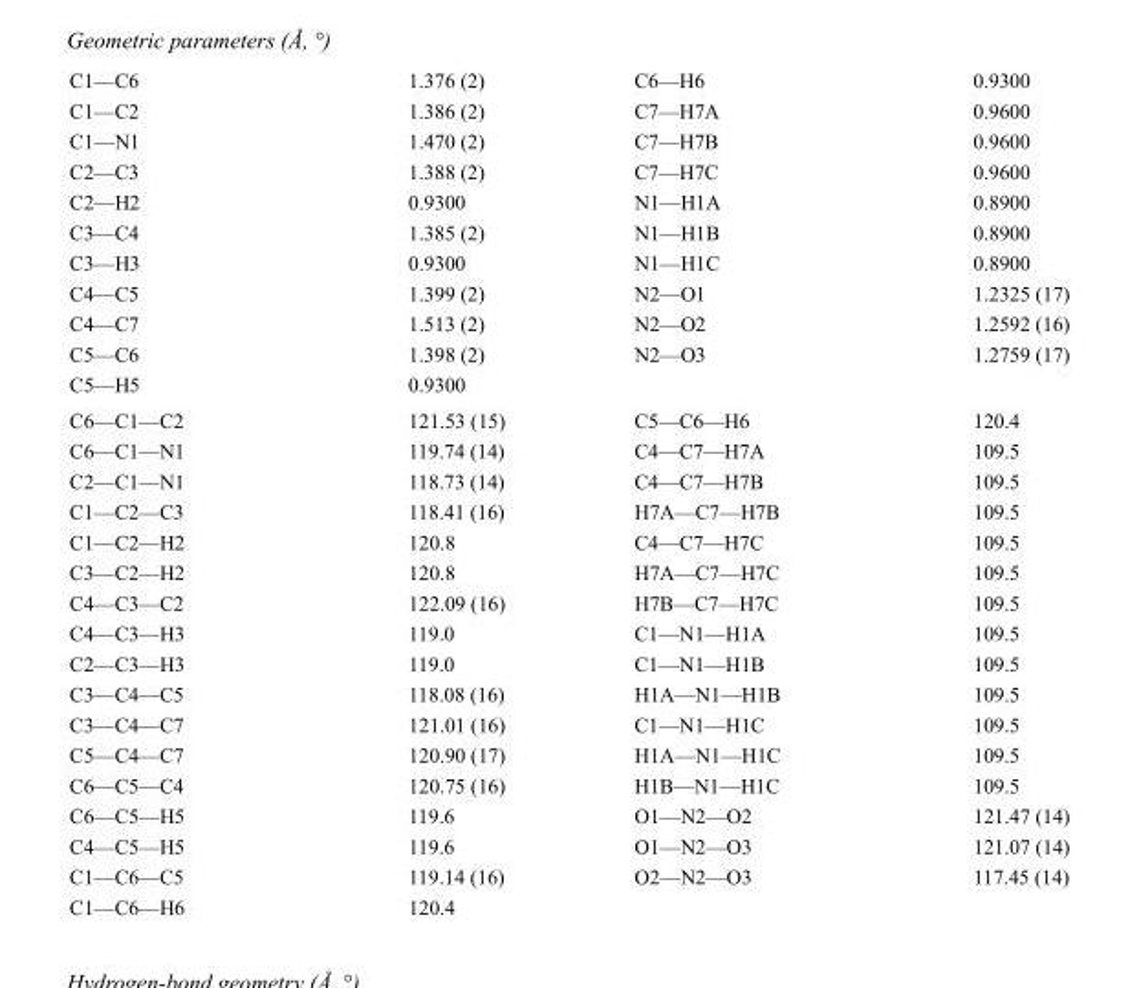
<table><tbody><tr><td>C1—C6</td><td>1.376 (2)</td><td>C6—H6</td><td>0.9300</td></tr><tr><td>C1—C2</td><td>1.386 (2)</td><td>C7—H7A</td><td>0.9600</td></tr><tr><td>C1—N1</td><td>1.470 (2)</td><td>C7—H7B</td><td>0.9600</td></tr><tr><td>C2—C3</td><td>1.388 (2)</td><td>C7—H7C</td><td>0.9600</td></tr><tr><td>C2—H2</td><td>0.9300</td><td>N1—H1A</td><td>0.8900</td></tr><tr><td>C3—C4</td><td>1.385 (2)</td><td>N1—H1B</td><td>0.8900</td></tr><tr><td>C3—H3</td><td>0.9300</td><td>N1—H1C</td><td>0.8900</td></tr><tr><td>C4—C5</td><td>1.399 (2)</td><td>N2—O1</td><td>1.2325 (17)</td></tr><tr><td>C4—C7</td><td>1.513 (2)</td><td>N2—O2</td><td>1.2592 (16)</td></tr><tr><td>C5—C6</td><td>1.398 (2)</td><td>N2—O3</td><td>1.2759 (17)</td></tr><tr><td>C5—H5</td><td>0.9300</td><td></td><td></td></tr><tr><td>C6—C1—C2</td><td>121.53 (15)</td><td>C5—C6—H6</td><td>120.4</td></tr><tr><td>C6—C1—N1</td><td>119.74 (14)</td><td>C4—C7—H7A</td><td>109.5</td></tr><tr><td>C2—C1—N1</td><td>118.73 (14)</td><td>C4—C7—H7B</td><td>109.5</td></tr><tr><td>C1—C2—C3</td><td>118.41 (16)</td><td>H7A—C7—H7B</td><td>109.5</td></tr><tr><td>C1—C2—H2</td><td>120.8</td><td>C4—C7—H7C</td><td>109.5</td></tr><tr><td>C3—C2—H2</td><td>120.8</td><td>H7A—C7—H7C</td><td>109.5</td></tr><tr><td>C4—C3—C2</td><td>122.09 (16)</td><td>H7B—C7—H7C</td><td>109.5</td></tr><tr><td>C4—C3—H3</td><td>119.0</td><td>C1—N1—H1A</td><td>109.5</td></tr><tr><td>C2—C3—H3</td><td>119.0</td><td>C1—N1—H1B</td><td>109.5</td></tr><tr><td>C3—C4—C5</td><td>118.08 (16)</td><td>H1A—N1—H1B</td><td>109.5</td></tr><tr><td>C3—C4—C7</td><td>121.01 (16)</td><td>C1—N1—H1C</td><td>109.5</td></tr><tr><td>C5—C4—C7</td><td>120.90 (17)</td><td>H1A—N1—H1C</td><td>109.5</td></tr><tr><td>C6—C5—C4</td><td>120.75 (16)</td><td>H1B—N1—H1C</td><td>109.5</td></tr><tr><td>C6—C5—H5</td><td>119.6</td><td>O1—N2—O2</td><td>121.47 (14)</td></tr><tr><td>C4—C5—H5</td><td>119.6</td><td>O1—N2—O3</td><td>121.07 (14)</td></tr><tr><td>C1—C6—C5</td><td>119.14 (16)</td><td>O2—N2—O3</td><td>117.45 (14)</td></tr><tr><td>C1—C6—H6</td><td>120.4</td><td></td><td></td></tr></tbody></table>